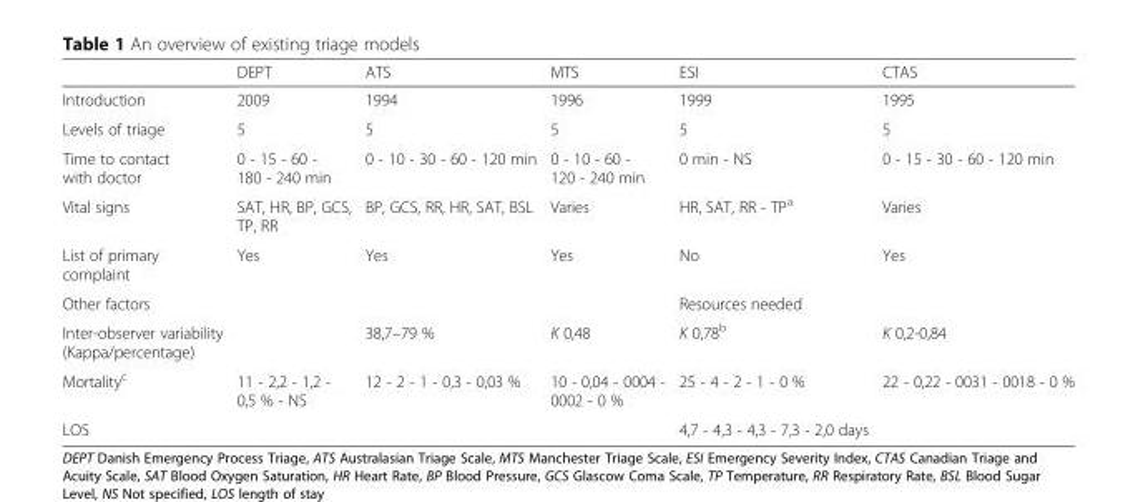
<table><thead><tr><td></td><td>DEPT</td><td>ATS</td><td>MTS</td><td>ESI</td><td>CTAS</td></tr></thead><tbody><tr><td>Introduction</td><td>2009</td><td>1994</td><td>1996</td><td>1999</td><td>1995</td></tr><tr><td>Levels of triage</td><td>5</td><td>5</td><td>5</td><td>5</td><td>5</td></tr><tr><td>Time to contact with doctor</td><td>0 - 15 - 60 - 180 - 240 min</td><td>0 - 10 - 30 - 60 - 120 min</td><td>0 - 10 - 60 - 120 - 240 min</td><td>0 min - NS</td><td>0 - 15 - 30 - 60 - 120 min</td></tr><tr><td>Vital signs</td><td>SAT, HR, BP, GCS, TP, RR</td><td>BP, GCS, RR, HR, SAT, BSL</td><td>Varies</td><td>HR, SAT, RR - TP<sup>a</sup></td><td>Varies</td></tr><tr><td>List of primary complaint</td><td>Yes</td><td>Yes</td><td>Yes</td><td>No</td><td>Yes</td></tr><tr><td>Other factors</td><td></td><td></td><td></td><td>Resources needed</td><td></td></tr><tr><td>Inter-observer variability (Kappa/percentage)</td><td></td><td>38,7–79 %</td><td>K 0,48</td><td>K 0,78<sup>b</sup></td><td>K 0,2-0,84</td></tr><tr><td>Mortality<sup>c</sup></td><td>11 - 2,2 - 1,2 - 0,5 % - NS</td><td>12 - 2 - 1 - 0,3 - 0,03 %</td><td>10 - 0,04 - 0004 - 0002 - 0 %</td><td>25 - 4 - 2 - 1 - 0 %</td><td>22 - 0,22 - 0031 - 0018 - 0 %</td></tr><tr><td>LOS</td><td></td><td></td><td></td><td>4,7 - 4,3 - 4,3 - 7,3 - 2,0 days</td><td></td></tr></tbody></table>